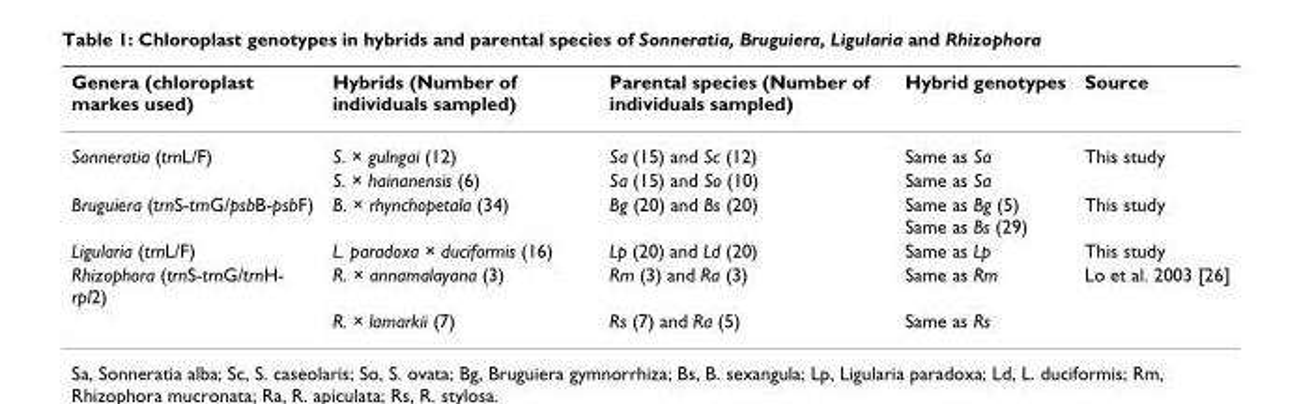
<table><thead><tr><td>Genera (chloroplast markes used)</td><td>Hybrids (Number of individuals sampled)</td><td>Parental species (Number of individuals sampled)</td><td>Hybrid genotypes</td><td>Source</td></tr></thead><tbody><tr><td rowspan="2">Sonneratia (trnL/F)</td><td>S. × gulngai (12)</td><td>Sa (15) and Sc (12)</td><td>Same as Sa</td><td>This study</td></tr><tr><td>S. × hainanensis (6)</td><td>Sa (15) and So (10)</td><td>Same as Sa</td><td></td></tr><tr><td>Bruguiera (trnS-trnG/psbB-psbF)</td><td>B. × rhynchopetala (34)</td><td>Bg (20) and Bs (20)</td><td>Same as Bg (5) Same as Bs (29)</td><td>This study</td></tr><tr><td>Ligularia (trnL/F)</td><td>L. paradoxa × duciformis (16)</td><td>Lp (20) and Ld (20)</td><td>Same as Lp</td><td>This study</td></tr><tr><td rowspan="2">Rhizophora (trnS-trnG/trnH- rpl2)</td><td>R. × annamalayana (3)</td><td>Rm (3) and Ra (3)</td><td>Same as Rm</td><td>Lo et al. 2003 [26]</td></tr><tr><td>R. × lamarkii (7)</td><td>Rs (7) and Ra (5)</td><td>Same as Rs</td><td></td></tr></tbody></table>